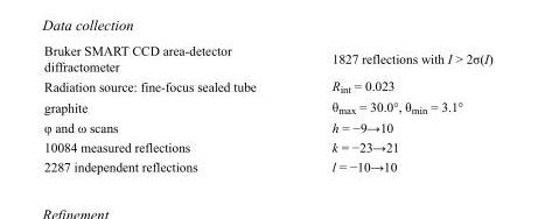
<table><tbody><tr><td>Bruker SMART CCD area-detector diffractometer</td><td>1827 reflections with I &gt; 2σ(I)</td></tr><tr><td>Radiation source: fine-focus sealed tube</td><td>R<sub>int</sub> = 0.023</td></tr><tr><td>graphite</td><td>θ<sub>max</sub> = 30.0°, θ<sub>min</sub> = 3.1°</td></tr><tr><td>φ and ω scans</td><td>h = −9→10</td></tr><tr><td>10084 measured reflections</td><td>k = −23→21</td></tr><tr><td>2287 independent reflections</td><td>l = −10→10</td></tr></tbody></table>